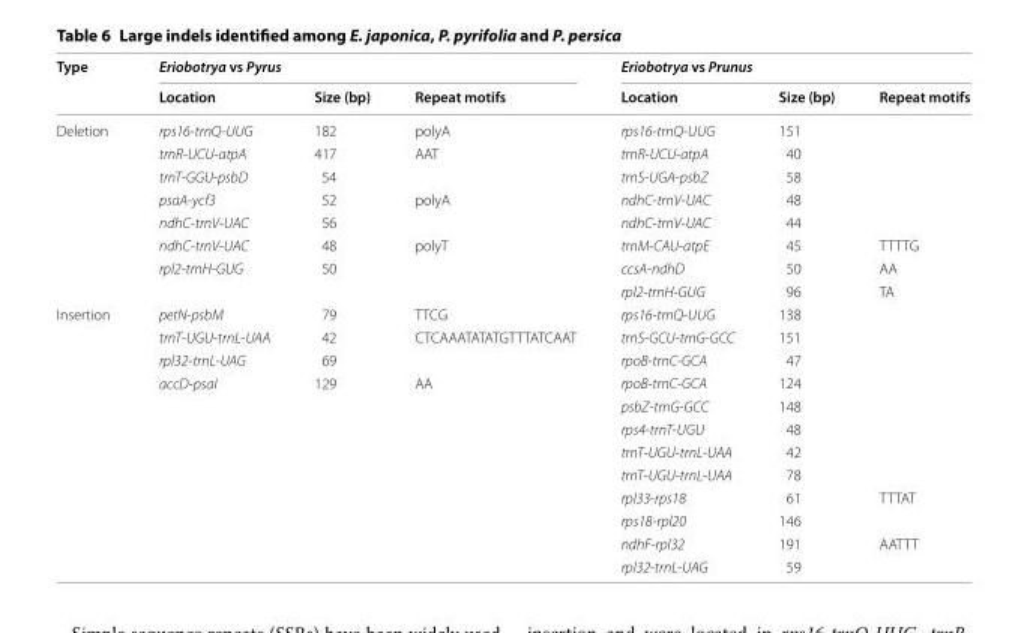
<table><thead><tr><td rowspan="2">Type</td><td colspan="3">Eriobotrya vs Pyrus</td><td colspan="3">Eriobotrya vs Prunus</td></tr><tr><td>Location</td><td>Size (bp)</td><td>Repeat motifs</td><td>Location</td><td>Size (bp)</td><td>Repeat motifs</td></tr></thead><tbody><tr><td rowspan="8">Deletion</td><td>rps16-trnQ-UUG</td><td>182</td><td>polyA</td><td>rps16-trnQ-UUG</td><td>151</td><td></td></tr><tr><td>trnR-UCU-atpA</td><td>417</td><td>AAT</td><td>trnR-UCU-atpA</td><td>40</td><td></td></tr><tr><td>trnT-GGU-psbD</td><td>54</td><td></td><td>trnS-UGA-psbZ</td><td>58</td><td></td></tr><tr><td>psaA-ycf3</td><td>52</td><td>polyA</td><td>ndhC-trnV-UAC</td><td>48</td><td></td></tr><tr><td>ndhC-trnV-UAC</td><td>56</td><td></td><td>ndhC-trnV-UAC</td><td>44</td><td></td></tr><tr><td>ndhC-trnV-UAC</td><td>48</td><td>polyT</td><td>trnM-CAU-atpE</td><td>45</td><td>TTTTG</td></tr><tr><td>rpl2-trnH-GUG</td><td>50</td><td></td><td>ccsA-ndhD</td><td>50</td><td>AA</td></tr><tr><td></td><td></td><td></td><td>rpl2-trnH-GUG</td><td>96</td><td>TA</td></tr><tr><td rowspan="12">Insertion</td><td>petN-psbM</td><td>79</td><td>TTCG</td><td>rps16-trnQ-UUG</td><td>138</td><td></td></tr><tr><td>trnT-UGU-trnL-UAA</td><td>42</td><td>CTCAAATATATGTTTATCAAT</td><td>trnS-GCU-trnG-GCC</td><td>151</td><td></td></tr><tr><td>rpl32-trnL-UAG</td><td>69</td><td></td><td>rpoB-trnC-GCA</td><td>47</td><td></td></tr><tr><td rowspan="9">accD-psaI</td><td rowspan="9">129</td><td rowspan="9">AA</td><td>rpoB-trnC-GCA</td><td>124</td><td></td></tr><tr><td>psbZ-trnG-GCC</td><td>148</td><td></td></tr><tr><td>rps4-trnT-UGU</td><td>48</td><td></td></tr><tr><td>trnT-UGU-trnL-UAA</td><td>42</td><td></td></tr><tr><td>trnT-UGU-trnL-UAA</td><td>78</td><td></td></tr><tr><td>rpl33-rps18</td><td>61</td><td>TTTAT</td></tr><tr><td>rps18-rpl20</td><td>146</td><td></td></tr><tr><td>ndhF-rpl32</td><td>191</td><td>AATTT</td></tr><tr><td>rpl32-trnL-UAG</td><td>59</td><td></td></tr></tbody></table>